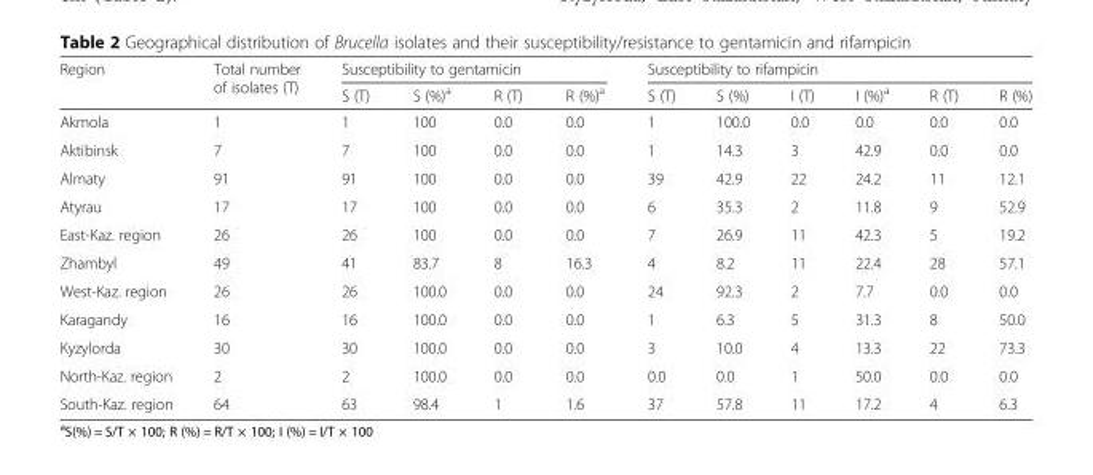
<table><thead><tr><td rowspan="2">Region</td><td rowspan="2">Total number of isolates (T)</td><td colspan="4">Susceptibility to gentamicin</td><td colspan="6">Susceptibility to rifampicin</td></tr><tr><td>S (T)</td><td>S (%)<sup>a</sup></td><td>R (T)</td><td>R (%)<sup>a</sup></td><td>S (T)</td><td>S (%)</td><td>I (T)</td><td>I (%)<sup>a</sup></td><td>R (T)</td><td>R (%)</td></tr></thead><tbody><tr><td>Akmola</td><td>1</td><td>1</td><td>100</td><td>0.0</td><td>0.0</td><td>1</td><td>100.0</td><td>0.0</td><td>0.0</td><td>0.0</td><td>0.0</td></tr><tr><td>Aktibinsk</td><td>7</td><td>7</td><td>100</td><td>0.0</td><td>0.0</td><td>1</td><td>14.3</td><td>3</td><td>42.9</td><td>0.0</td><td>0.0</td></tr><tr><td>Almaty</td><td>91</td><td>91</td><td>100</td><td>0.0</td><td>0.0</td><td>39</td><td>42.9</td><td>22</td><td>24.2</td><td>11</td><td>12.1</td></tr><tr><td>Atyrau</td><td>17</td><td>17</td><td>100</td><td>0.0</td><td>0.0</td><td>6</td><td>35.3</td><td>2</td><td>11.8</td><td>9</td><td>52.9</td></tr><tr><td>East-Kaz. region</td><td>26</td><td>26</td><td>100</td><td>0.0</td><td>0.0</td><td>7</td><td>26.9</td><td>11</td><td>42.3</td><td>5</td><td>19.2</td></tr><tr><td>Zhambyl</td><td>49</td><td>41</td><td>83.7</td><td>8</td><td>16.3</td><td>4</td><td>8.2</td><td>11</td><td>22.4</td><td>28</td><td>57.1</td></tr><tr><td>West-Kaz. region</td><td>26</td><td>26</td><td>100.0</td><td>0.0</td><td>0.0</td><td>24</td><td>92.3</td><td>2</td><td>7.7</td><td>0.0</td><td>0.0</td></tr><tr><td>Karagandy</td><td>16</td><td>16</td><td>100.0</td><td>0.0</td><td>0.0</td><td>1</td><td>6.3</td><td>5</td><td>31.3</td><td>8</td><td>50.0</td></tr><tr><td>Kyzylorda</td><td>30</td><td>30</td><td>100.0</td><td>0.0</td><td>0.0</td><td>3</td><td>10.0</td><td>4</td><td>13.3</td><td>22</td><td>73.3</td></tr><tr><td>North-Kaz. region</td><td>2</td><td>2</td><td>100.0</td><td>0.0</td><td>0.0</td><td>0.0</td><td>0.0</td><td>1</td><td>50.0</td><td>0.0</td><td>0.0</td></tr><tr><td>South-Kaz. region</td><td>64</td><td>63</td><td>98.4</td><td>1</td><td>1.6</td><td>37</td><td>57.8</td><td>11</td><td>17.2</td><td>4</td><td>6.3</td></tr></tbody></table>